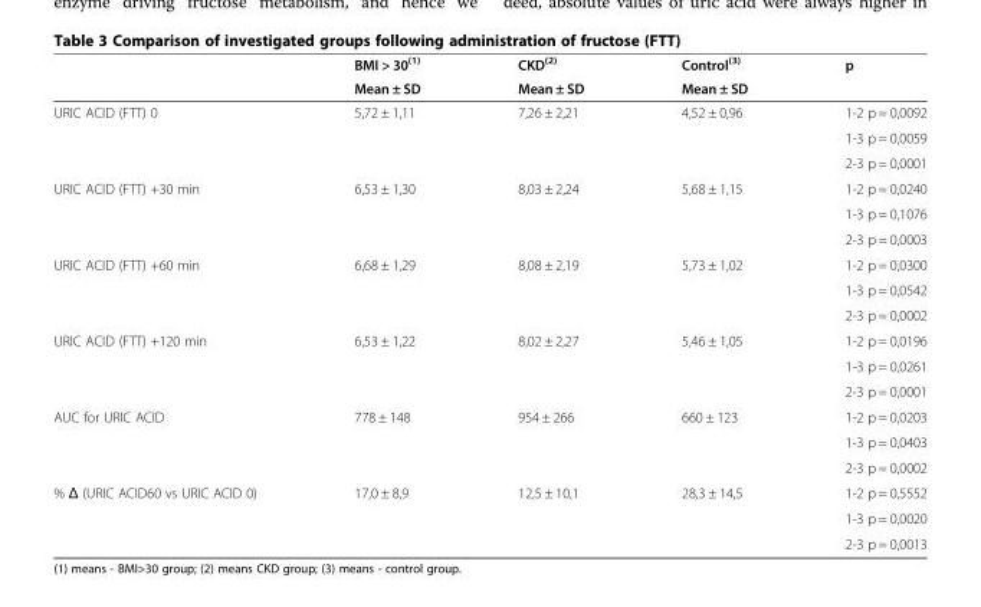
<table><thead><tr><td rowspan="2"></td><td rowspan="2">BMI &gt; 30<sup>(1)</sup> Mean ± SD</td><td rowspan="2">CKD<sup>(2)</sup> Mean ± SD</td><td rowspan="2">Control<sup>(3)</sup> Mean ± SD</td><td rowspan="2">p</td></tr><tr></tr></thead><tbody><tr><td rowspan="3">URIC ACID (FTT) 0</td><td rowspan="3">5,72 ± 1,11</td><td rowspan="3">7,26 ± 2,21</td><td rowspan="3">4,52 ± 0,96</td><td>1-2 p = 0,0092</td></tr><tr><td>1-3 p = 0,0059</td></tr><tr><td>2-3 p = 0,0001</td></tr><tr><td rowspan="3">URIC ACID (FTT) +30 min</td><td rowspan="3">6,53 ± 1,30</td><td rowspan="3">8,03 ± 2,24</td><td rowspan="3">5,68 ± 1,15</td><td>1-2 p = 0,0240</td></tr><tr><td>1-3 p = 0,1076</td></tr><tr><td>2-3 p = 0,0003</td></tr><tr><td rowspan="3">URIC ACID (FTT) +60 min</td><td rowspan="3">6,68 ± 1,29</td><td rowspan="3">8,08 ± 2,19</td><td rowspan="3">5,73 ± 1,02</td><td>1-2 p = 0,0300</td></tr><tr><td>1-3 p = 0,0542</td></tr><tr><td>2-3 p = 0,0002</td></tr><tr><td rowspan="3">URIC ACID (FTT) +120 min</td><td rowspan="3">6,53 ± 1,22</td><td rowspan="3">8,02 ± 2,27</td><td rowspan="3">5,46 ± 1,05</td><td>1-2 p = 0,0196</td></tr><tr><td>1-3 p = 0,0261</td></tr><tr><td>2-3 p = 0,0001</td></tr><tr><td rowspan="3">AUC for URIC ACID</td><td rowspan="3">778 ± 148</td><td rowspan="3">954 ± 266</td><td rowspan="3">660 ± 123</td><td>1-2 p = 0,0203</td></tr><tr><td>1-3 p = 0,0403</td></tr><tr><td>2-3 p = 0,0002</td></tr><tr><td rowspan="3">% Δ (URIC ACID60 vs URIC ACID 0)</td><td rowspan="3">17,0 ± 8,9</td><td rowspan="3">12,5 ± 10,1</td><td rowspan="3">28,3 ± 14,5</td><td>1-2 p = 0,5552</td></tr><tr><td>1-3 p = 0,0020</td></tr><tr><td>2-3 p = 0,0013</td></tr></tbody></table>